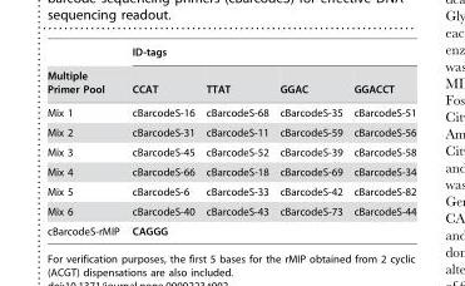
<table><thead><tr><td rowspan="2">Multiple Primer Pool</td><td colspan="4">ID-tags</td></tr><tr><td>CCAT</td><td>TTAT</td><td>GGAC</td><td>GGACCT</td></tr></thead><tbody><tr><td>Mix 1</td><td>cBarcodeS-16</td><td>cBarcodeS-68</td><td>cBarcodeS-35</td><td>cBarcodeS-51</td></tr><tr><td>Mix 2</td><td>cBarcodeS-31</td><td>cBarcodeS-11</td><td>cBarcodeS-59</td><td>cBarcodeS-56</td></tr><tr><td>Mix 3</td><td>cBarcodeS-45</td><td>cBarcodeS-52</td><td>cBarcodeS-39</td><td>cBarcodeS-58</td></tr><tr><td>Mix 4</td><td>cBarcodeS-66</td><td>cBarcodeS-18</td><td>cBarcodeS-69</td><td>cBarcodeS-34</td></tr><tr><td>Mix 5</td><td>cBarcodeS-6</td><td>cBarcodeS-33</td><td>cBarcodeS-42</td><td>cBarcodeS-82</td></tr><tr><td>Mix 6</td><td>cBarcodeS-40</td><td>cBarcodeS-43</td><td>cBarcodeS-73</td><td>cBarcodeS-44</td></tr><tr><td>cBarcodeS-rMIP</td><td>CAGGG</td><td></td><td></td><td></td></tr></tbody></table>